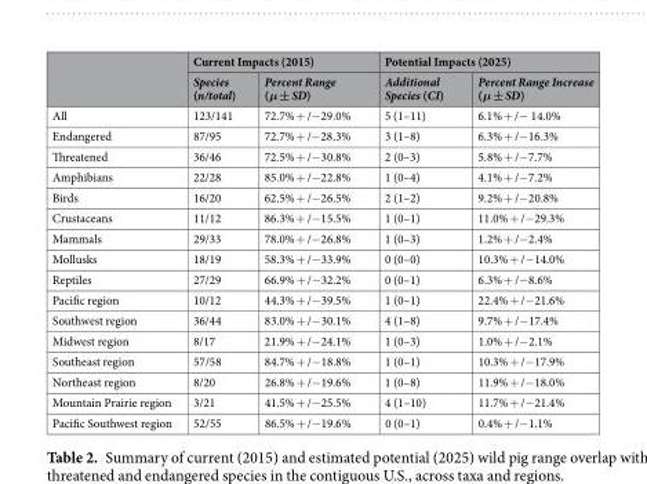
<table><thead><tr><td rowspan="2"></td><td colspan="2">Current Impacts (2015)</td><td colspan="2">Potential Impacts (2025)</td></tr><tr><td>Species (n/total)</td><td>Percent Range (μ ± SD)</td><td>Additional Species (CI)</td><td>Percent Range Increase (μ ± SD)</td></tr></thead><tbody><tr><td>All</td><td>123/141</td><td>72.7% + /−29.0%</td><td>5 (1–11)</td><td>6.1% + /− 14.0%</td></tr><tr><td>Endangered</td><td>87/95</td><td>72.7% + /−28.3%</td><td>3 (1–8)</td><td>6.3% + /−16.3%</td></tr><tr><td>Threatened</td><td>36/46</td><td>72.5% + /−30.8%</td><td>2 (0–3)</td><td>5.8% + /−7.7%</td></tr><tr><td>Amphibians</td><td>22/28</td><td>85.0% + /−22.8%</td><td>1 (0–4)</td><td>4.1% + /−7.2%</td></tr><tr><td>Birds</td><td>16/20</td><td>62.5% + /−26.5%</td><td>2 (1–2)</td><td>9.2% + /−20.8%</td></tr><tr><td>Crustaceans</td><td>11/12</td><td>86.3% + /−15.5%</td><td>1 (0–1)</td><td>11.0% + /−29.3%</td></tr><tr><td>Mammals</td><td>29/33</td><td>78.0% + /−26.8%</td><td>1 (0–3)</td><td>1.2% + /−2.4%</td></tr><tr><td>Mollusks</td><td>18/19</td><td>58.3% + /−33.9%</td><td>0 (0–0)</td><td>10.3% + /−14.0%</td></tr><tr><td>Reptiles</td><td>27/29</td><td>66.9% + /−32.2%</td><td>0 (0–1)</td><td>6.3% + /−8.6%</td></tr><tr><td>Pacific region</td><td>10/12</td><td>44.3% + /−39.5%</td><td>1 (0–1)</td><td>22.4% + /−21.6%</td></tr><tr><td>Southwest region</td><td>36/44</td><td>83.0% + /−30.1%</td><td>4 (1–8)</td><td>9.7% + /−17.4%</td></tr><tr><td>Midwest region</td><td>8/17</td><td>21.9% + /−24.1%</td><td>1 (0–3)</td><td>1.0% + /−2.1%</td></tr><tr><td>Southeast region</td><td>57/58</td><td>84.7% + /−18.8%</td><td>1 (0–1)</td><td>10.3% + /−17.9%</td></tr><tr><td>Northeast region</td><td>8/20</td><td>26.8% + /−19.6%</td><td>1 (0–8)</td><td>11.9% + /−18.0%</td></tr><tr><td>Mountain Prairie region</td><td>3/21</td><td>41.5% + /−25.5%</td><td>4 (1–10)</td><td>11.7% + /−21.4%</td></tr><tr><td>Pacific Southwest region</td><td>52/55</td><td>86.5% + /−19.6%</td><td>0 (0–1)</td><td>0.4% + /−1.1%</td></tr></tbody></table>